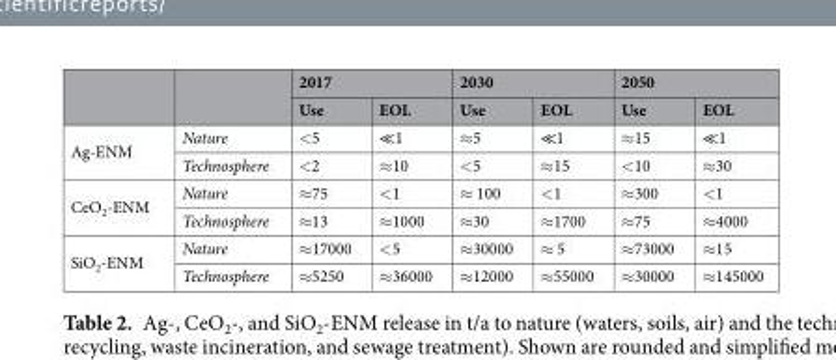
<table><thead><tr><td rowspan="2"></td><td rowspan="2"></td><td colspan="2">2017</td><td colspan="2">2030</td><td colspan="2">2050</td></tr><tr><td>Use</td><td>EOL</td><td>Use</td><td>EOL</td><td>Use</td><td>EOL</td></tr></thead><tbody><tr><td rowspan="2">Ag-ENM</td><td>Nature</td><td>&lt;5</td><td>≪1</td><td>≈5</td><td>≪1</td><td>≈15</td><td>≪1</td></tr><tr><td>Technosphere</td><td>&lt;2</td><td>≈10</td><td>&lt;5</td><td>≈15</td><td>&lt;10</td><td>≈30</td></tr><tr><td rowspan="2">CeO<sub>2</sub>-ENM</td><td>Nature</td><td>≈75</td><td>&lt;1</td><td>≈ 100</td><td>&lt;1</td><td>≈300</td><td>&lt;1</td></tr><tr><td>Technosphere</td><td>≈13</td><td>≈1000</td><td>≈30</td><td>≈1700</td><td>≈75</td><td>≈4000</td></tr><tr><td rowspan="2">SiO<sub>2</sub>-ENM</td><td>Nature</td><td>≈17000</td><td>&lt;5</td><td>≈30000</td><td>≈ 5</td><td>≈73000</td><td>≈15</td></tr><tr><td>Technosphere</td><td>≈5250</td><td>≈36000</td><td>≈12000</td><td>≈55000</td><td>≈30000</td><td>≈145000</td></tr></tbody></table>